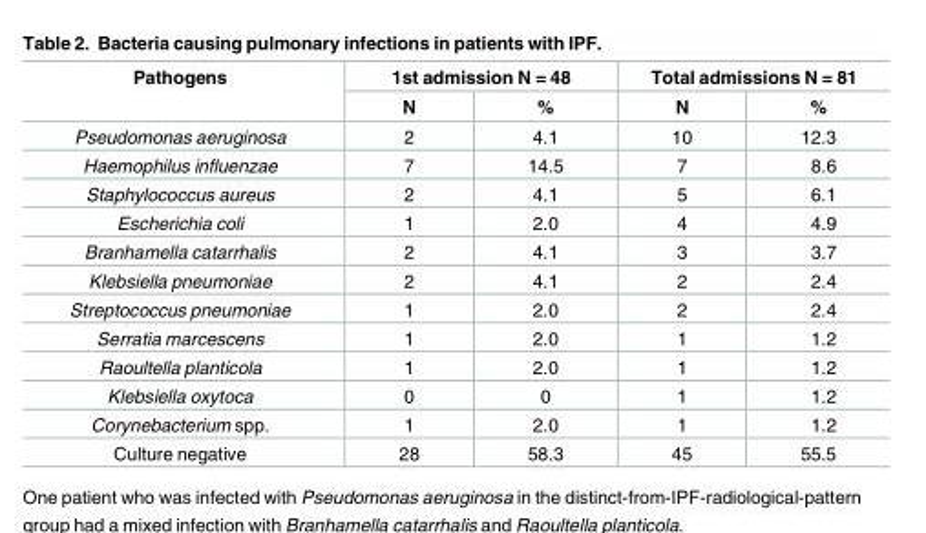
<table><thead><tr><td rowspan="2">Pathogens</td><td colspan="2">1st admission N = 48</td><td colspan="2">Total admissions N = 81</td></tr><tr><td>N</td><td>%</td><td>N</td><td>%</td></tr></thead><tbody><tr><td>Pseudomonas aeruginosa</td><td>2</td><td>4.1</td><td>10</td><td>12.3</td></tr><tr><td>Haemophilus influenzae</td><td>7</td><td>14.5</td><td>7</td><td>8.6</td></tr><tr><td>Staphylococcus aureus</td><td>2</td><td>4.1</td><td>5</td><td>6.1</td></tr><tr><td>Escherichia coli</td><td>1</td><td>2.0</td><td>4</td><td>4.9</td></tr><tr><td>Branhamella catarrhalis</td><td>2</td><td>4.1</td><td>3</td><td>3.7</td></tr><tr><td>Klebsiella pneumoniae</td><td>2</td><td>4.1</td><td>2</td><td>2.4</td></tr><tr><td>Streptococcus pneumoniae</td><td>1</td><td>2.0</td><td>2</td><td>2.4</td></tr><tr><td>Serratia marcescens</td><td>1</td><td>2.0</td><td>1</td><td>1.2</td></tr><tr><td>Raoultella planticola</td><td>1</td><td>2.0</td><td>1</td><td>1.2</td></tr><tr><td>Klebsiella oxytoca</td><td>0</td><td>0</td><td>1</td><td>1.2</td></tr><tr><td>Corynebacterium spp.</td><td>1</td><td>2.0</td><td>1</td><td>1.2</td></tr><tr><td>Culture negative</td><td>28</td><td>58.3</td><td>45</td><td>55.5</td></tr></tbody></table>